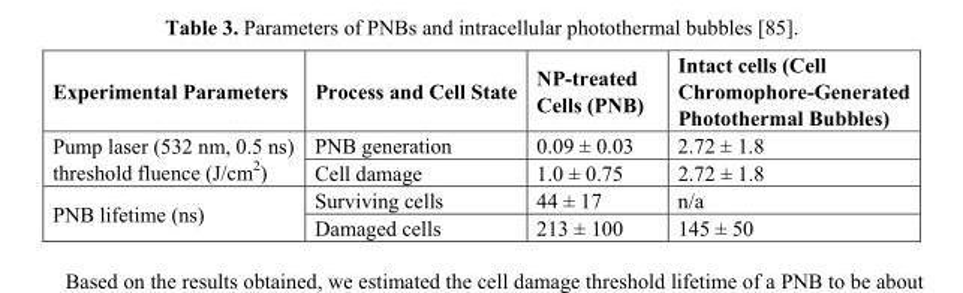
<table><thead><tr><td>Experimental Parameters</td><td>Process and Cell State</td><td>NP-treated Cells (PNB)</td><td>Intact cells (Cell Chromophore-Generated Photothermal Bubbles)</td></tr></thead><tbody><tr><td rowspan="2">Pump laser (532 nm, 0.5 ns) threshold fluence (J/cm<sup>2</sup>)</td><td>PNB generation</td><td>0.09 ± 0.03</td><td>2.72 ± 1.8</td></tr><tr><td>Cell damage</td><td>1.0 ± 0.75</td><td>2.72 ± 1.8</td></tr><tr><td rowspan="2">PNB lifetime (ns)</td><td>Surviving cells</td><td>44 ± 17</td><td>n/a</td></tr><tr><td>Damaged cells</td><td>213 ± 100</td><td>145 ± 50</td></tr></tbody></table>